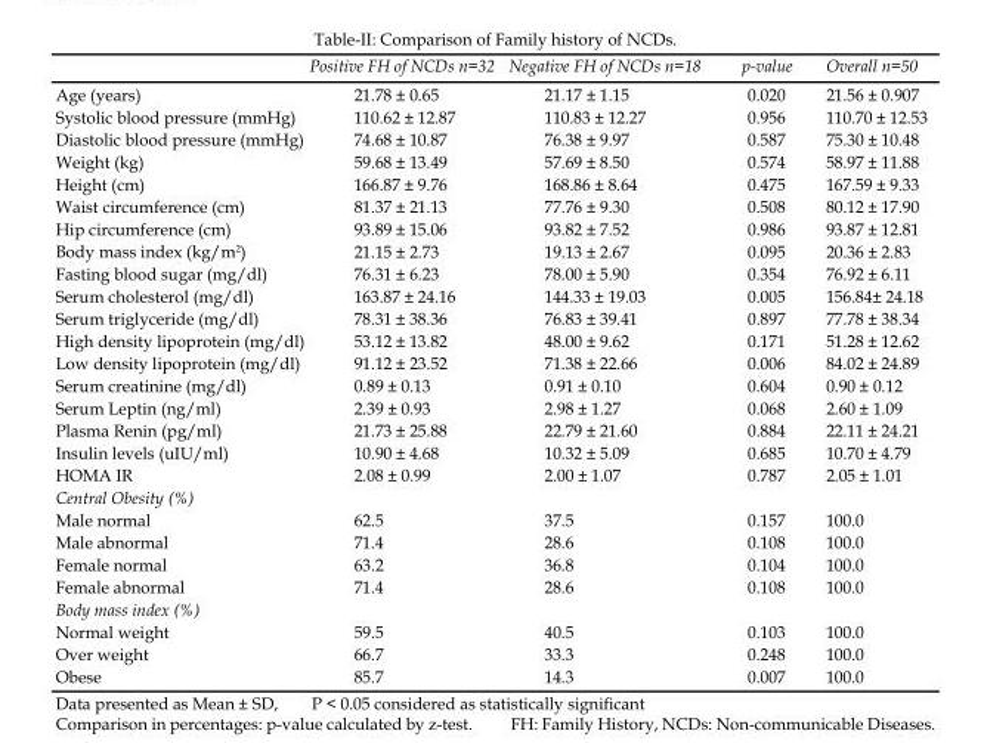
<table><thead><tr><td></td><td>Positive FH of NCDs n=32</td><td>Negative FH of NCDs n=18</td><td>p-value</td><td>Overall n=50</td></tr></thead><tbody><tr><td>Age (years)</td><td>21.78 ± 0.65</td><td>21.17 ± 1.15</td><td>0.020</td><td>21.56 ± 0.907</td></tr><tr><td>Systolic blood pressure (mmHg)</td><td>110.62 ± 12.87</td><td>110.83 ± 12.27</td><td>0.956</td><td>110.70 ± 12.53</td></tr><tr><td>Diastolic blood pressure (mmHg)</td><td>74.68 ± 10.87</td><td>76.38 ± 9.97</td><td>0.587</td><td>75.30 ± 10.48</td></tr><tr><td>Weight (kg)</td><td>59.68 ± 13.49</td><td>57.69 ± 8.50</td><td>0.574</td><td>58.97 ± 11.88</td></tr><tr><td>Height (cm)</td><td>166.87 ± 9.76</td><td>168.86 ± 8.64</td><td>0.475</td><td>167.59 ± 9.33</td></tr><tr><td>Waist circumference (cm)</td><td>81.37 ± 21.13</td><td>77.76 ± 9.30</td><td>0.508</td><td>80.12 ± 17.90</td></tr><tr><td>Hip circumference (cm)</td><td>93.89 ± 15.06</td><td>93.82 ± 7.52</td><td>0.986</td><td>93.87 ± 12.81</td></tr><tr><td>Body mass index (kg/m<sup>2)</sup></td><td>21.15 ± 2.73</td><td>19.13 ± 2.67</td><td>0.095</td><td>20.36 ± 2.83</td></tr><tr><td>Fasting blood sugar (mg/dl)</td><td>76.31 ± 6.23</td><td>78.00 ± 5.90</td><td>0.354</td><td>76.92 ± 6.11</td></tr><tr><td>Serum cholesterol (mg/dl)</td><td>163.87 ± 24.16</td><td>144.33 ± 19.03</td><td>0.005</td><td>156.84± 24.18</td></tr><tr><td>Serum triglyceride (mg/dl)</td><td>78.31 ± 38.36</td><td>76.83 ± 39.41</td><td>0.897</td><td>77.78 ± 38.34</td></tr><tr><td>High density lipoprotein (mg/dl)</td><td>53.12 ± 13.82</td><td>48.00 ± 9.62</td><td>0.171</td><td>51.28 ± 12.62</td></tr><tr><td>Low density lipoprotein (mg/dl)</td><td>91.12 ± 23.52</td><td>71.38 ± 22.66</td><td>0.006</td><td>84.02 ± 24.89</td></tr><tr><td>Serum creatinine (mg/dl)</td><td>0.89 ± 0.13</td><td>0.91 ± 0.10</td><td>0.604</td><td>0.90 ± 0.12</td></tr><tr><td>Serum Leptin (ng/ml)</td><td>2.39 ± 0.93</td><td>2.98 ± 1.27</td><td>0.068</td><td>2.60 ± 1.09</td></tr><tr><td>Plasma Renin (pg/ml)</td><td>21.73 ± 25.88</td><td>22.79 ± 21.60</td><td>0.884</td><td>22.11 ± 24.21</td></tr><tr><td>Insulin levels (uIU/ml)</td><td>10.90 ± 4.68</td><td>10.32 ± 5.09</td><td>0.685</td><td>10.70 ± 4.79</td></tr><tr><td>HOMA IR</td><td>2.08 ± 0.99</td><td>2.00 ± 1.07</td><td>0.787</td><td>2.05 ± 1.01</td></tr><tr><td colspan="5">Central Obesity (%)</td></tr><tr><td>Male normal</td><td>62.5</td><td>37.5</td><td>0.157</td><td>100.0</td></tr><tr><td>Male abnormal</td><td>71.4</td><td>28.6</td><td>0.108</td><td>100.0</td></tr><tr><td>Female normal</td><td>63.2</td><td>36.8</td><td>0.104</td><td>100.0</td></tr><tr><td>Female abnormal</td><td>71.4</td><td>28.6</td><td>0.108</td><td>100.0</td></tr><tr><td colspan="5">Body mass index (%)</td></tr><tr><td>Normal weight</td><td>59.5</td><td>40.5</td><td>0.103</td><td>100.0</td></tr><tr><td>Over weight</td><td>66.7</td><td>33.3</td><td>0.248</td><td>100.0</td></tr><tr><td>Obese</td><td>85.7</td><td>14.3</td><td>0.007</td><td>100.0</td></tr></tbody></table>